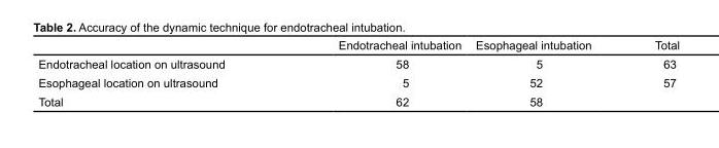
<table><thead><tr><td></td><td>Endotracheal intubation</td><td>Esophageal intubation</td><td>Total</td></tr></thead><tbody><tr><td>Endotracheal location on ultrasound</td><td>58</td><td>5</td><td>63</td></tr><tr><td>Esophageal location on ultrasound</td><td>5</td><td>52</td><td>57</td></tr><tr><td>Total</td><td>62</td><td>58</td><td></td></tr></tbody></table>